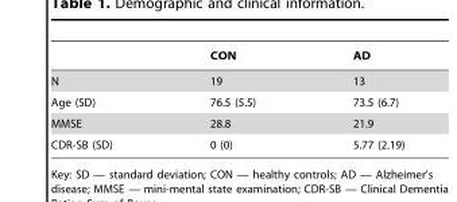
<table><thead><tr><td></td><td>CON</td><td>AD</td></tr></thead><tbody><tr><td>N</td><td>19</td><td>13</td></tr><tr><td>Age (SD)</td><td>76.5 (5.5)</td><td>73.5 (6.7)</td></tr><tr><td>MMSE</td><td>28.8</td><td>21.9</td></tr><tr><td>CDR-SB (SD)</td><td>0 (0)</td><td>5.77 (2.19)</td></tr></tbody></table>